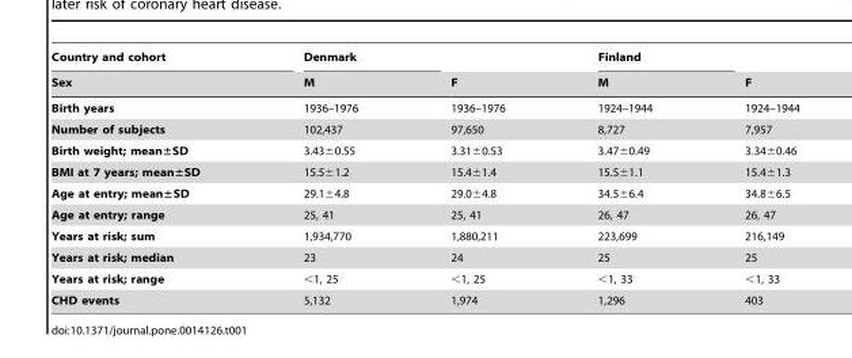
<table><thead><tr><td rowspan="2">Country and cohort Sex</td><td rowspan="2">Denmark M</td><td rowspan="2">F</td><td rowspan="2">Finland M</td><td rowspan="2">F</td></tr><tr></tr></thead><tbody><tr><td>Birth years</td><td>1936–1976</td><td>1936–1976</td><td>1924–1944</td><td>1924–1944</td></tr><tr><td>Number of subjects</td><td>102,437</td><td>97,650</td><td>8,727</td><td>7,957</td></tr><tr><td>Birth weight; mean±SD</td><td>3.43±0.55</td><td>3.31±0.53</td><td>3.47±0.49</td><td>3.34±0.46</td></tr><tr><td>BMI at 7 years; mean±SD</td><td>15.5±1.2</td><td>15.4±1.4</td><td>15.5±1.1</td><td>15.4±1.3</td></tr><tr><td>Age at entry; mean±SD</td><td>29.1±4.8</td><td>29.0±4.8</td><td>34.5±6.4</td><td>34.8±6.5</td></tr><tr><td>Age at entry; range</td><td>25, 41</td><td>25, 41</td><td>26, 47</td><td>26, 47</td></tr><tr><td>Years at risk; sum</td><td>1,934,770</td><td>1,880,211</td><td>223,699</td><td>216,149</td></tr><tr><td>Years at risk; median</td><td>23</td><td>24</td><td>25</td><td>25</td></tr><tr><td>Years at risk; range</td><td>&lt;1, 25</td><td>&lt;1, 25</td><td>&lt;1, 33</td><td>&lt;1, 33</td></tr><tr><td>CHD events</td><td>5,132</td><td>1,974</td><td>1,296</td><td>403</td></tr></tbody></table>